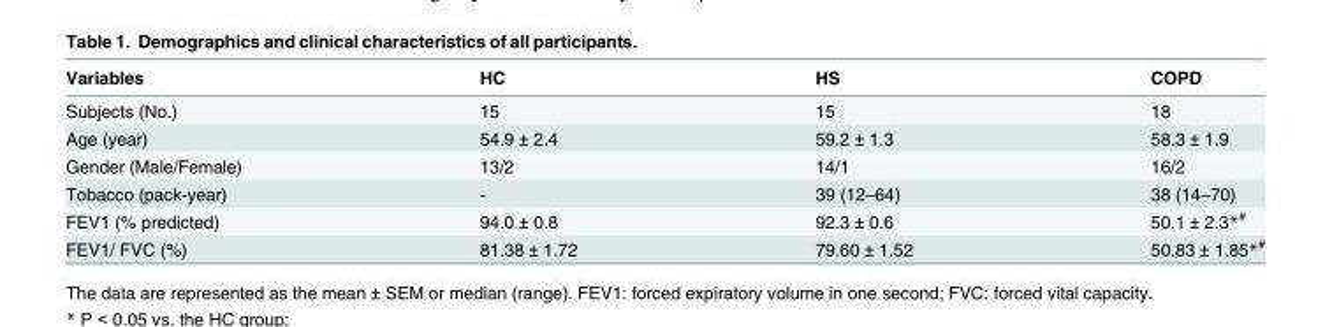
<table><thead><tr><td>Variables</td><td>HC</td><td>HS</td><td>COPD</td></tr></thead><tbody><tr><td>Subjects (No.)</td><td>15</td><td>15</td><td>18</td></tr><tr><td>Age (year)</td><td>54.9 ± 2.4</td><td>59.2 ± 1.3</td><td>58.3 ± 1.9</td></tr><tr><td>Gender (Male/Female)</td><td>13/2</td><td>14/1</td><td>16/2</td></tr><tr><td>Tobacco (pack-year)</td><td>-</td><td>39 (12–64)</td><td>38 (14–70)</td></tr><tr><td>FEV1 (% predicted)</td><td>94.0 ± 0.8</td><td>92.3 ± 0.6</td><td>50.1 ± 2.3*<sup>#</sup></td></tr><tr><td>FEV1/ FVC (%)</td><td>81.38 ± 1.72</td><td>79.60 ± 1.52</td><td>50.83 ± 1.85*<sup>#</sup></td></tr></tbody></table>